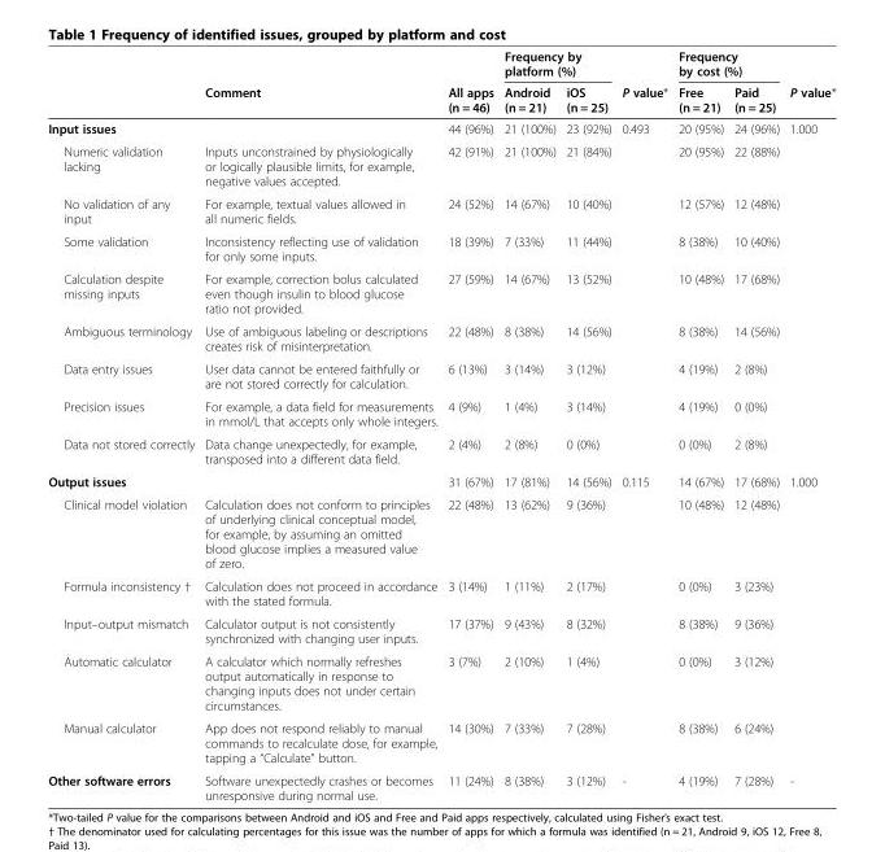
<table><thead><tr><td rowspan="2"></td><td rowspan="2">Comment</td><td rowspan="2">All apps (n = 46)</td><td colspan="2">Frequency by platform (%)</td><td rowspan="2">P value*</td><td colspan="2">Frequency by cost (%)</td><td rowspan="2">P value*</td></tr><tr><td>Android (n = 21)</td><td>iOS (n = 25)</td><td>Free (n = 21)</td><td>Paid (n = 25)</td></tr></thead><tbody><tr><td>Input issues</td><td></td><td>44 (96%)</td><td>21 (100%)</td><td>23 (92%)</td><td>0.493</td><td>20 (95%)</td><td>24 (96%)</td><td>1.000</td></tr><tr><td>Numeric validation lacking</td><td>Inputs unconstrained by physiologically or logically plausible limits, for example, negative values accepted.</td><td>42 (91%)</td><td>21 (100%)</td><td>21 (84%)</td><td></td><td>20 (95%)</td><td>22 (88%)</td><td></td></tr><tr><td>No validation of any input</td><td>For example, textual values allowed in all numeric fields.</td><td>24 (52%)</td><td>14 (67%)</td><td>10 (40%)</td><td></td><td>12 (57%)</td><td>12 (48%)</td><td></td></tr><tr><td>Some validation</td><td>Inconsistency reflecting use of validation for only some inputs.</td><td>18 (39%)</td><td>7 (33%)</td><td>11 (44%)</td><td></td><td>8 (38%)</td><td>10 (40%)</td><td></td></tr><tr><td>Calculation despite missing inputs</td><td>For example, correction bolus calculated even though insulin to blood glucose ratio not provided.</td><td>27 (59%)</td><td>14 (67%)</td><td>13 (52%)</td><td></td><td>10 (48%)</td><td>17 (68%)</td><td></td></tr><tr><td>Ambiguous terminology</td><td>Use of ambiguous labeling or descriptions creates risk of misinterpretation.</td><td>22 (48%)</td><td>8 (38%)</td><td>14 (56%)</td><td></td><td>8 (38%)</td><td>14 (56%)</td><td></td></tr><tr><td>Data entry issues</td><td>User data cannot be entered faithfully or are not stored correctly for calculation.</td><td>6 (13%)</td><td>3 (14%)</td><td>3 (12%)</td><td></td><td>4 (19%)</td><td>2 (8%)</td><td></td></tr><tr><td>Precision issues</td><td>For example, a data field for measurements in mmol/L that accepts only whole integers.</td><td>4 (9%)</td><td>1 (4%)</td><td>3 (14%)</td><td></td><td>4 (19%)</td><td>0 (0%)</td><td></td></tr><tr><td>Data not stored correctly</td><td>Data change unexpectedly, for example, transposed into a different data field.</td><td>2 (4%)</td><td>2 (8%)</td><td>0 (0%)</td><td></td><td>0 (0%)</td><td>2 (8%)</td><td></td></tr><tr><td>Output issues</td><td></td><td>31 (67%)</td><td>17 (81%)</td><td>14 (56%)</td><td>0.115</td><td>14 (67%)</td><td>17 (68%)</td><td>1.000</td></tr><tr><td>Clinical model violation</td><td>Calculation does not conform to principles of underlying clinical conceptual model, for example, by assuming an omitted blood glucose implies a measured value of zero.</td><td>22 (48%)</td><td>13 (62%)</td><td>9 (36%)</td><td></td><td>10 (48%)</td><td>12 (48%)</td><td></td></tr><tr><td>Formula inconsistency †</td><td>Calculation does not proceed in accordance with the stated formula.</td><td>3 (14%)</td><td>1 (11%)</td><td>2 (17%)</td><td></td><td>0 (0%)</td><td>3 (23%)</td><td></td></tr><tr><td>Input–output mismatch</td><td>Calculator output is not consistently synchronized with changing user inputs.</td><td>17 (37%)</td><td>9 (43%)</td><td>8 (32%)</td><td></td><td>8 (38%)</td><td>9 (36%)</td><td></td></tr><tr><td>Automatic calculator</td><td>A calculator which normally refreshes output automatically in response to changing inputs does not under certain circumstances.</td><td>3 (7%)</td><td>2 (10%)</td><td>1 (4%)</td><td></td><td>0 (0%)</td><td>3 (12%)</td><td></td></tr><tr><td>Manual calculator</td><td>App does not respond reliably to manual commands to recalculate dose, for example, tapping a “Calculate” button.</td><td>14 (30%)</td><td>7 (33%)</td><td>7 (28%)</td><td></td><td>8 (38%)</td><td>6 (24%)</td><td></td></tr><tr><td>Other software errors</td><td>Software unexpectedly crashes or becomes unresponsive during normal use.</td><td>11 (24%)</td><td>8 (38%)</td><td>3 (12%)</td><td>-</td><td>4 (19%)</td><td>7 (28%)</td><td>-</td></tr></tbody></table>